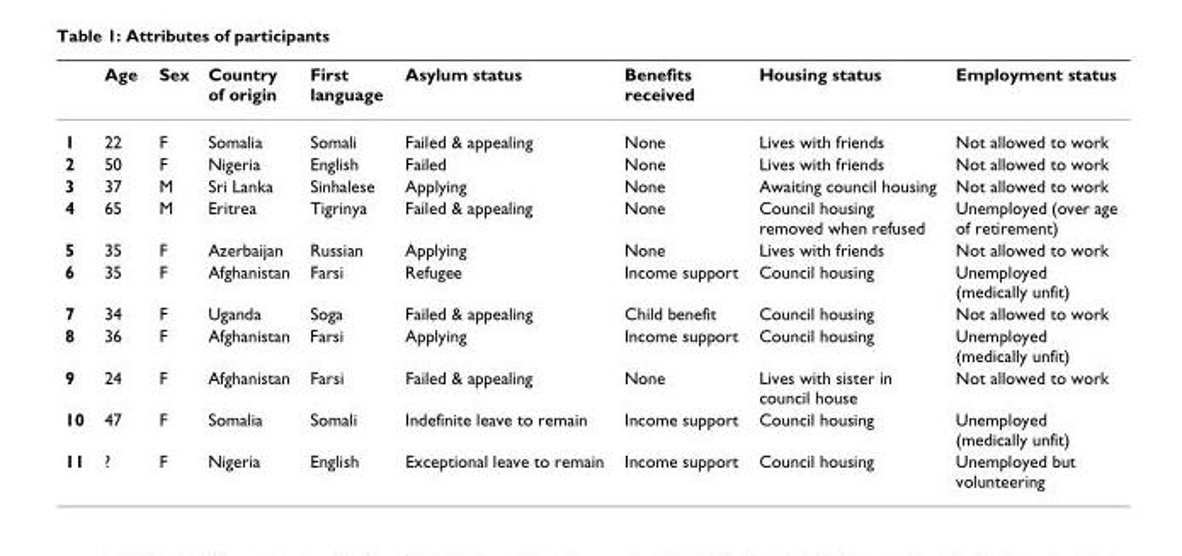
<table><thead><tr><td></td><td>Age</td><td>Sex</td><td>Country of origin</td><td>First language</td><td>Asylum status</td><td>Benefits received</td><td>Housing status</td><td>Employment status</td></tr></thead><tbody><tr><td>1</td><td>22</td><td>F</td><td>Somalia</td><td>Somali</td><td>Failed &amp; appealing</td><td>None</td><td>Lives with friends</td><td>Not allowed to work</td></tr><tr><td>2</td><td>50</td><td>F</td><td>Nigeria</td><td>English</td><td>Failed</td><td>None</td><td>Lives with friends</td><td>Not allowed to work</td></tr><tr><td>3</td><td>37</td><td>M</td><td>Sri Lanka</td><td>Sinhalese</td><td>Applying</td><td>None</td><td>Awaiting council housing</td><td>Not allowed to work</td></tr><tr><td>4</td><td>65</td><td>M</td><td>Eritrea</td><td>Tigrinya</td><td>Failed &amp; appealing</td><td>None</td><td>Council housing removed when refused</td><td>Unemployed (over age of retirement)</td></tr><tr><td>5</td><td>35</td><td>F</td><td>Azerbaijan</td><td>Russian</td><td>Applying</td><td>None</td><td>Lives with friends</td><td>Not allowed to work</td></tr><tr><td>6</td><td>35</td><td>F</td><td>Afghanistan</td><td>Farsi</td><td>Refugee</td><td>Income support</td><td>Council housing</td><td>Unemployed (medically unfit)</td></tr><tr><td>7</td><td>34</td><td>F</td><td>Uganda</td><td>Soga</td><td>Failed &amp; appealing</td><td>Child benefit</td><td>Council housing</td><td>Not allowed to work</td></tr><tr><td>8</td><td>36</td><td>F</td><td>Afghanistan</td><td>Farsi</td><td>Applying</td><td>Income support</td><td>Council housing</td><td>Unemployed (medically unfit)</td></tr><tr><td>9</td><td>24</td><td>F</td><td>Afghanistan</td><td>Farsi</td><td>Failed &amp; appealing</td><td>None</td><td>Lives with sister in council house</td><td>Not allowed to work</td></tr><tr><td>10</td><td>47</td><td>F</td><td>Somalia</td><td>Somali</td><td>Indefinite leave to remain</td><td>Income support</td><td>Council housing</td><td>Unemployed (medically unfit)</td></tr><tr><td>11</td><td>?</td><td>F</td><td>Nigeria</td><td>English</td><td>Exceptional leave to remain</td><td>Income support</td><td>Council housing</td><td>Unemployed but volunteering</td></tr></tbody></table>